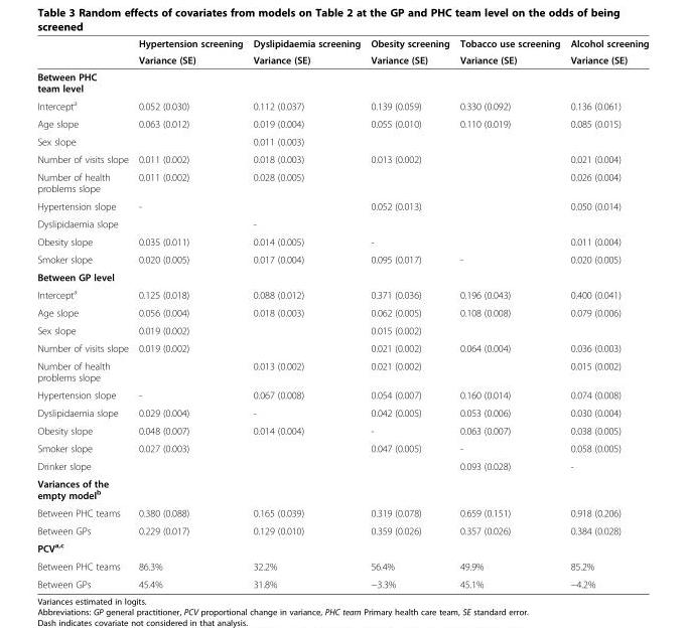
<table><thead><tr><td rowspan="2"></td><td rowspan="2">Hypertension screening Variance (SE)</td><td rowspan="2">Dyslipidaemia screening Variance (SE)</td><td rowspan="2">Obesity screening Variance (SE)</td><td rowspan="2">Tobacco use screening Variance (SE)</td><td rowspan="2">Alcohol screening Variance (SE)</td></tr><tr></tr></thead><tbody><tr><td colspan="6">Between PHC team level</td></tr><tr><td>Intercept<sup>a</sup></td><td>0.052 (0.030)</td><td>0.112 (0.037)</td><td>0.139 (0.059)</td><td>0.330 (0.092)</td><td>0.136 (0.061)</td></tr><tr><td>Age slope</td><td>0.063 (0.012)</td><td>0.019 (0.004)</td><td>0.055 (0.010)</td><td>0.110 (0.019)</td><td>0.085 (0.015)</td></tr><tr><td>Sex slope</td><td></td><td>0.011 (0.003)</td><td></td><td></td><td></td></tr><tr><td>Number of visits slope</td><td>0.011 (0.002)</td><td>0.018 (0.003)</td><td>0.013 (0.002)</td><td></td><td>0.021 (0.004)</td></tr><tr><td>Number of health problems slope</td><td>0.011 (0.002)</td><td>0.028 (0.005)</td><td></td><td></td><td>0.026 (0.004)</td></tr><tr><td>Hypertension slope</td><td>-</td><td></td><td>0.052 (0.013)</td><td></td><td>0.050 (0.014)</td></tr><tr><td>Dyslipidaemia slope</td><td></td><td>-</td><td></td><td></td><td></td></tr><tr><td>Obesity slope</td><td>0.035 (0.011)</td><td>0.014 (0.005)</td><td>-</td><td></td><td>0.011 (0.004)</td></tr><tr><td>Smoker slope</td><td>0.020 (0.005)</td><td>0.017 (0.004)</td><td>0.095 (0.017)</td><td>-</td><td>0.020 (0.005)</td></tr><tr><td colspan="6">Between GP level</td></tr><tr><td>Intercept<sup>a</sup></td><td>0.125 (0.018)</td><td>0.088 (0.012)</td><td>0.371 (0.036)</td><td>0.196 (0.043)</td><td>0.400 (0.041)</td></tr><tr><td>Age slope</td><td>0.056 (0.004)</td><td>0.018 (0.003)</td><td>0.062 (0.005)</td><td>0.108 (0.008)</td><td>0.079 (0.006)</td></tr><tr><td>Sex slope</td><td>0.019 (0.002)</td><td></td><td>0.015 (0.002)</td><td></td><td></td></tr><tr><td>Number of visits slope</td><td>0.019 (0.002)</td><td></td><td>0.021 (0.002)</td><td>0.064 (0.004)</td><td>0.036 (0.003)</td></tr><tr><td>Number of health problems slope</td><td></td><td>0.013 (0.002)</td><td>0.021 (0.002)</td><td></td><td>0.015 (0.002)</td></tr><tr><td>Hypertension slope</td><td>-</td><td>0.067 (0.008)</td><td>0.054 (0.007)</td><td>0.160 (0.014)</td><td>0.074 (0.008)</td></tr><tr><td>Dyslipidaemia slope</td><td>0.029 (0.004)</td><td>-</td><td>0.042 (0.005)</td><td>0.053 (0.006)</td><td>0.030 (0.004)</td></tr><tr><td>Obesity slope</td><td>0.048 (0.007)</td><td>0.014 (0.004)</td><td>-</td><td>0.063 (0.007)</td><td>0.038 (0.005)</td></tr><tr><td>Smoker slope</td><td>0.027 (0.003)</td><td></td><td>0.047 (0.005)</td><td>-</td><td>0.058 (0.005)</td></tr><tr><td>Drinker slope</td><td></td><td></td><td></td><td>0.093 (0.028)</td><td>-</td></tr><tr><td colspan="6">Variances of the empty model<sup>b</sup></td></tr><tr><td>Between PHC teams</td><td>0.380 (0.088)</td><td>0.165 (0.039)</td><td>0.319 (0.078)</td><td>0.659 (0.151)</td><td>0.918 (0.206)</td></tr><tr><td>Between GPs</td><td>0.229 (0.017)</td><td>0.129 (0.010)</td><td>0.359 (0.026)</td><td>0.357 (0.026)</td><td>0.384 (0.028)</td></tr><tr><td colspan="6">PCV<sup>a,c</sup></td></tr><tr><td>Between PHC teams</td><td>86.3%</td><td>32.2%</td><td>56.4%</td><td>49.9%</td><td>85.2%</td></tr><tr><td>Between GPs</td><td>45.4%</td><td>31.8%</td><td>−3.3%</td><td>45.1%</td><td>−4.2%</td></tr></tbody></table>